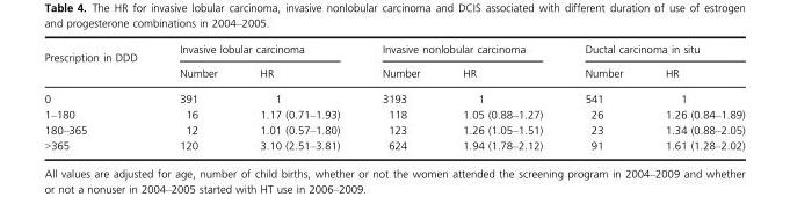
<table><thead><tr><td rowspan="2">Prescription in DDD</td><td colspan="2">Invasive lobular carcinoma</td><td colspan="2">Invasive nonlobular carcinoma</td><td colspan="2">Ductal carcinoma in situ</td></tr><tr><td>Number</td><td>HR</td><td>Number</td><td>HR</td><td>Number</td><td>HR</td></tr></thead><tbody><tr><td>0</td><td>391</td><td>1</td><td>3193</td><td>1</td><td>541</td><td>1</td></tr><tr><td>1–180</td><td>16</td><td>1.17 (0.71–1.93)</td><td>118</td><td>1.05 (0.88–1.27)</td><td>26</td><td>1.26 (0.84–1.89)</td></tr><tr><td>180–365</td><td>12</td><td>1.01 (0.57–1.80)</td><td>123</td><td>1.26 (1.05–1.51)</td><td>23</td><td>1.34 (0.88–2.05)</td></tr><tr><td>&gt;365</td><td>120</td><td>3.10 (2.51–3.81)</td><td>624</td><td>1.94 (1.78–2.12)</td><td>91</td><td>1.61 (1.28–2.02)</td></tr></tbody></table>